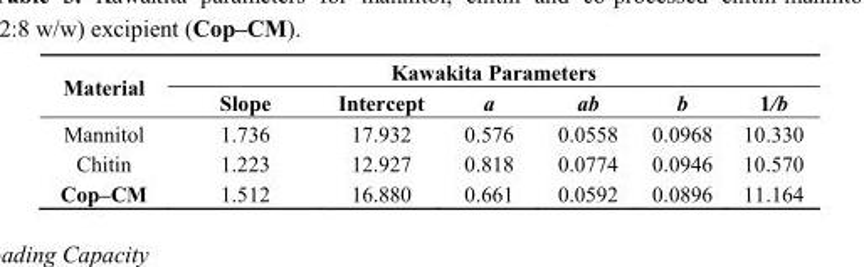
<table><thead><tr><td rowspan="2">Material</td><td colspan="6">Kawakita Parameters</td></tr><tr><td>Slope</td><td>Intercept</td><td>a</td><td>ab</td><td>b</td><td>1/b</td></tr></thead><tbody><tr><td>Mannitol</td><td>1.736</td><td>17.932</td><td>0.576</td><td>0.0558</td><td>0.0968</td><td>10.330</td></tr><tr><td>Chitin</td><td>1.223</td><td>12.927</td><td>0.818</td><td>0.0774</td><td>0.0946</td><td>10.570</td></tr><tr><td>Cop–CM</td><td>1.512</td><td>16.880</td><td>0.661</td><td>0.0592</td><td>0.0896</td><td>11.164</td></tr></tbody></table>